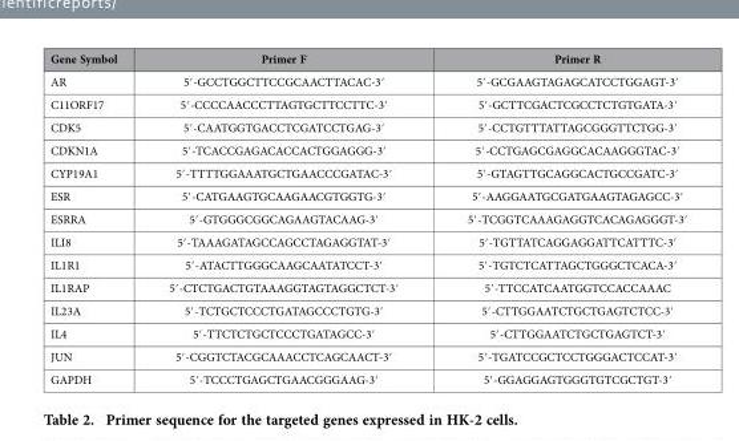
<table><thead><tr><td>Gene Symbol</td><td>Primer F</td><td>Primer R</td></tr></thead><tbody><tr><td>AR</td><td>5′ -GCCTGGCTTCCGCAACTTACAC-3′</td><td>5′ -GCGAAGTAGAGCATCCTGGAGT-3′</td></tr><tr><td>C11ORF17</td><td>5′ -CCCCAACCCTTAGTGCTTCCTTC-3′</td><td>5′ -GCTTCGACTCGCCTCTGTGATA-3′</td></tr><tr><td>CDK5</td><td>5′ -CAATGGTGACCTCGATCCTGAG-3′</td><td>5′ -CCTGTTTATTAGCGGGTTCTGG-3′</td></tr><tr><td>CDKN1A</td><td>5′ -TCACCGAGACACCACTGGAGGG-3′</td><td>5′ -CCTGAGCGAGGCACAAGGGTAC-3′</td></tr><tr><td>CYP19A1</td><td>5′ -TTTTGGAAATGCTGAACCCGATAC-3′</td><td>5′ -GTAGTTGCAGGCACTGCCGATC-3′</td></tr><tr><td>ESR</td><td>5′ -CATGAAGTGCAAGAACGTGGTG-3′</td><td>5′ -AAGGAATGCGATGAAGTAGAGCC-3′</td></tr><tr><td>ESRRA</td><td>5′ -GTGGGCGGCAGAAGTACAAG-3′</td><td>5′ -TCGGTCAAAGAGGTCACAGAGGGT-3′</td></tr><tr><td>ILI8</td><td>5′ -TAAAGATAGCCAGCCTAGAGGTAT-3′</td><td>5′ -TGTTATCAGGAGGATTCATTTC-3′</td></tr><tr><td>IL1R1</td><td>5′ -ATACTTGGGCAAGCAATATCCT-3′</td><td>5′ -TGTCTCATTAGCTGGGCTCACA-3′</td></tr><tr><td>IL1RAP</td><td>5′ -CTCTGACTGTAAAGGTAGTAGGCTCT-3′</td><td>5′ -TTCCATCAATGGTCCACCAAAC</td></tr><tr><td>IL23A</td><td>5′ -TCTGCTCCCTGATAGCCCTGTG-3′</td><td>5′ -CTTGGAATCTGCTGAGTCTCC-3′</td></tr><tr><td>IL4</td><td>5′ -TTCTCTGCTCCCTGATAGCC-3′</td><td>5′ -CTTGGAATCTGCTGAGTCT-3′</td></tr><tr><td>JUN</td><td>5′ -CGGTCTACGCAAACCTCAGCAACT-3′</td><td>5′ -TGATCCGCTCCTGGGACTCCAT-3′</td></tr><tr><td>GAPDH</td><td>5′ -TCCCTGAGCTGAACGGGAAG-3′</td><td>5′ -GGAGGAGTGGGTGTCGCTGT-3′</td></tr></tbody></table>